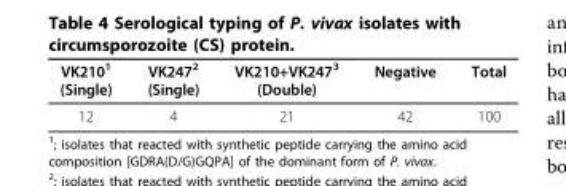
<table><thead><tr><td>VK210<sup>1</sup> (Single)</td><td>VK247<sup>2</sup> (Single)</td><td>VK210+VK247<sup>3</sup> (Double)</td><td>Negative</td><td>Total</td></tr></thead><tbody><tr><td>12</td><td>4</td><td>21</td><td>42</td><td>100</td></tr></tbody></table>